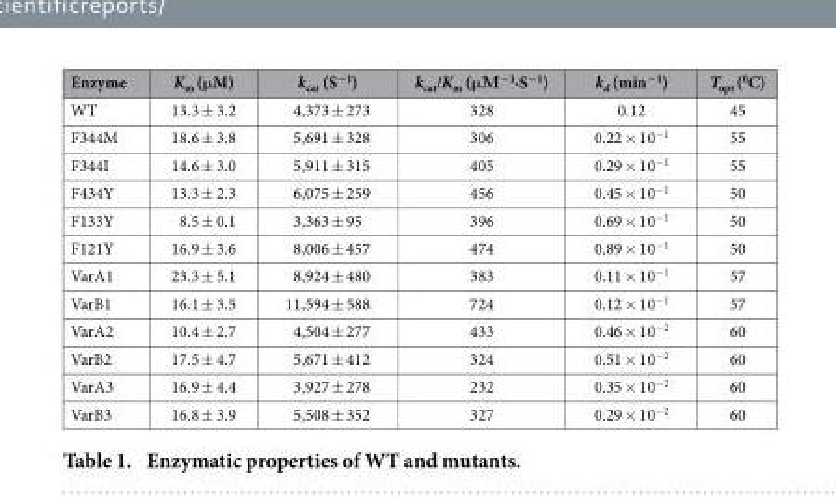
<table><thead><tr><td>Enzyme</td><td>K<sub>m</sub> (μM)</td><td>k<sub>cat</sub> (S<sup>−1</sup>)</td><td>k<sub>cat</sub>/K<sub>m</sub> (μΜ<sup>−1</sup>·S<sup>−1</sup>)</td><td>k<sub>d</sub> (min<sup>−1</sup>)</td><td>T<sub>opt</sub> (<sup>0</sup>C)</td></tr></thead><tbody><tr><td>WT</td><td>13.3 ± 3.2</td><td>4,373 ± 273</td><td>328</td><td>0.12</td><td>45</td></tr><tr><td>F344M</td><td>18.6 ± 3.8</td><td>5,691 ± 328</td><td>306</td><td>0.22 × 10<sup>−1</sup></td><td>55</td></tr><tr><td>F344I</td><td>14.6 ± 3.0</td><td>5,911 ± 315</td><td>405</td><td>0.29 × 10<sup>−1</sup></td><td>55</td></tr><tr><td>F434Y</td><td>13.3 ± 2.3</td><td>6,075 ± 259</td><td>456</td><td>0.45 × 10<sup>−1</sup></td><td>50</td></tr><tr><td>F133Y</td><td>8.5 ± 0.1</td><td>3,363 ± 95</td><td>396</td><td>0.69 × 10<sup>−1</sup></td><td>50</td></tr><tr><td>F121Y</td><td>16.9 ± 3.6</td><td>8,006 ± 457</td><td>474</td><td>0.89 × 10<sup>−1</sup></td><td>50</td></tr><tr><td>VarA1</td><td>23.3 ± 5.1</td><td>8,924 ± 480</td><td>383</td><td>0.11 × 10<sup>−1</sup></td><td>57</td></tr><tr><td>VarB1</td><td>16.1 ± 3.5</td><td>11,594 ± 588</td><td>724</td><td>0.12 × 10<sup>−1</sup></td><td>57</td></tr><tr><td>VarA2</td><td>10.4 ± 2.7</td><td>4,504 ± 277</td><td>433</td><td>0.46 × 10<sup>−2</sup></td><td>60</td></tr><tr><td>VarB2</td><td>17.5 ± 4.7</td><td>5,671 ± 412</td><td>324</td><td>0.51 × 10<sup>−2</sup></td><td>60</td></tr><tr><td>VarA3</td><td>16.9 ± 4.4</td><td>3,927 ± 278</td><td>232</td><td>0.35 × 10<sup>−2</sup></td><td>60</td></tr><tr><td>VarB3</td><td>16.8 ± 3.9</td><td>5,508 ± 352</td><td>327</td><td>0.29 × 10<sup>−2</sup></td><td>60</td></tr></tbody></table>